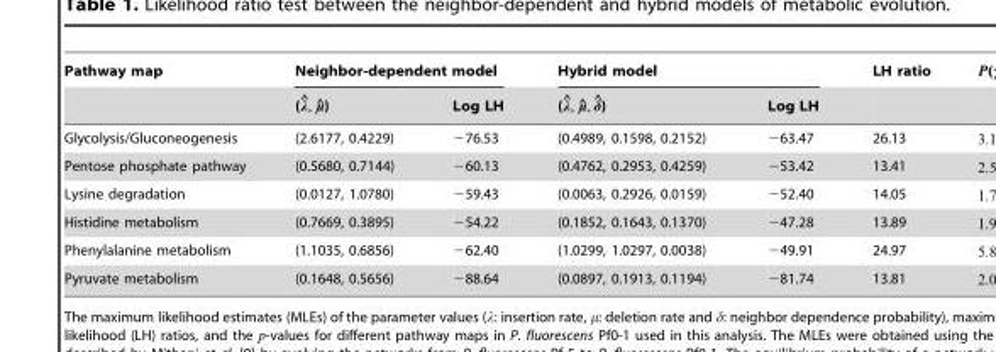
<table><thead><tr><td rowspan="2">Pathway map</td><td colspan="2">Neighbor-dependent model</td><td colspan="2">Hybrid model</td><td rowspan="2">LH ratio</td></tr><tr><td>(^l, ^m)</td><td>Log LH</td><td>(^l, ^m, ^d)</td><td>Log LH</td></tr></thead><tbody><tr><td>Glycolysis/Gluconeogenesis</td><td>(2.6177, 0.4229)</td><td>−76.53</td><td>(0.4989, 0.1598, 0.2152)</td><td>−63.47</td><td>26.13</td></tr><tr><td>Pentose phosphate pathway</td><td>(0.5680, 0.7144)</td><td>−60.13</td><td>(0.4762, 0.2953, 0.4259)</td><td>−53.42</td><td>13.41</td></tr><tr><td>Lysine degradation</td><td>(0.0127, 1.0780)</td><td>−59.43</td><td>(0.0063, 0.2926, 0.0159)</td><td>−52.40</td><td>14.05</td></tr><tr><td>Histidine metabolism</td><td>(0.7669, 0.3895)</td><td>−54.22</td><td>(0.1852, 0.1643, 0.1370)</td><td>−47.28</td><td>13.89</td></tr><tr><td>Phenylalanine metabolism</td><td>(1.1035, 0.6856)</td><td>−62.40</td><td>(1.0299, 1.0297, 0.0038)</td><td>−49.91</td><td>24.97</td></tr><tr><td>Pyruvate metabolism</td><td>(0.1648, 0.5656)</td><td>−88.64</td><td>(0.0897, 0.1913, 0.1194)</td><td>−81.74</td><td>13.81</td></tr></tbody></table>